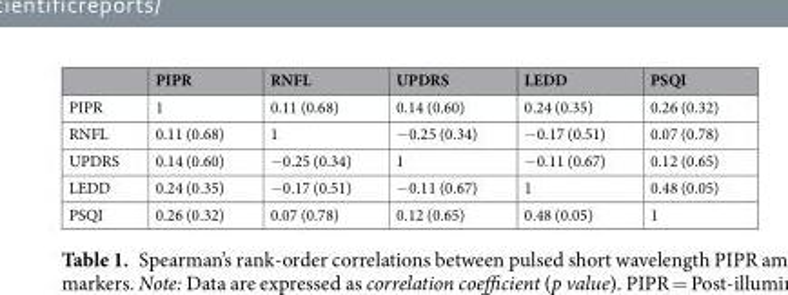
<table><thead><tr><td></td><td>PIPR</td><td>RNFL</td><td>UPDRS</td><td>LEDD</td><td>PSQI</td></tr></thead><tbody><tr><td>PIPR</td><td>1</td><td>0.11 (0.68)</td><td>0.14 (0.60)</td><td>0.24 (0.35)</td><td>0.26 (0.32)</td></tr><tr><td>RNFL</td><td>0.11 (0.68)</td><td>1</td><td>−0.25 (0.34)</td><td>−0.17 (0.51)</td><td>0.07 (0.78)</td></tr><tr><td>UPDRS</td><td>0.14 (0.60)</td><td>−0.25 (0.34)</td><td>1</td><td>−0.11 (0.67)</td><td>0.12 (0.65)</td></tr><tr><td>LEDD</td><td>0.24 (0.35)</td><td>−0.17 (0.51)</td><td>−0.11 (0.67)</td><td>1</td><td>0.48 (0.05)</td></tr><tr><td>PSQI</td><td>0.26 (0.32)</td><td>0.07 (0.78)</td><td>0.12 (0.65)</td><td>0.48 (0.05)</td><td>1</td></tr></tbody></table>